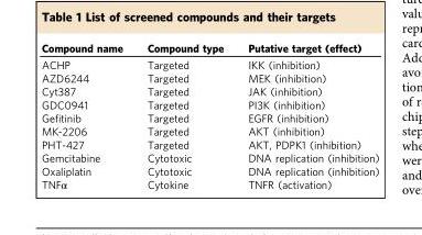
<table><thead><tr><td>Compound name</td><td>Compound type</td><td>Putative target (effect)</td></tr></thead><tbody><tr><td>ACHP</td><td>Targeted</td><td>IKK (inhibition)</td></tr><tr><td>AZD6244</td><td>Targeted</td><td>MEK (inhibition)</td></tr><tr><td>Cyt387</td><td>Targeted</td><td>JAK (inhibition)</td></tr><tr><td>GDC0941</td><td>Targeted</td><td>PI3K (inhibition)</td></tr><tr><td>Gefitinib</td><td>Targeted</td><td>EGFR (inhibition)</td></tr><tr><td>MK-2206</td><td>Targeted</td><td>AKT (inhibition)</td></tr><tr><td>PHT-427</td><td>Targeted</td><td>AKT, PDPK1 (inhibition)</td></tr><tr><td>Gemcitabine</td><td>Cytotoxic</td><td>DNA replication (inhibition)</td></tr><tr><td>Oxaliplatin</td><td>Cytotoxic</td><td>DNA replication (inhibition)</td></tr><tr><td>TNFα</td><td>Cytokine</td><td>TNFR (activation)</td></tr></tbody></table>